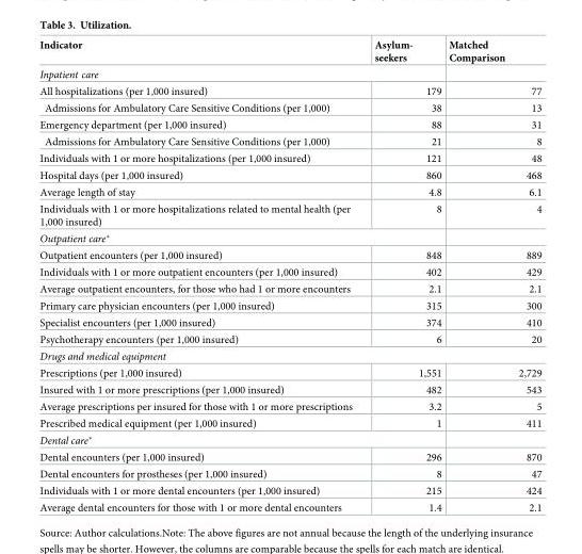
<table><thead><tr><td>Indicator</td><td>Asylum- seekers</td><td>Matched Comparison</td></tr></thead><tbody><tr><td colspan="3">Inpatient care</td></tr><tr><td>All hospitalizations (per 1,000 insured)</td><td>179</td><td>77</td></tr><tr><td>Admissions for Ambulatory Care Sensitive Conditions (per 1,000)</td><td>38</td><td>13</td></tr><tr><td>Emergency department (per 1,000 insured)</td><td>88</td><td>31</td></tr><tr><td>Admissions for Ambulatory Care Sensitive Conditions (per 1,000)</td><td>21</td><td>8</td></tr><tr><td>Individuals with 1 or more hospitalizations (per 1,000 insured)</td><td>121</td><td>48</td></tr><tr><td>Hospital days (per 1,000 insured)</td><td>860</td><td>468</td></tr><tr><td>Average length of stay</td><td>4.8</td><td>6.1</td></tr><tr><td>Individuals with 1 or more hospitalizations related to mental health (per 1,000 insured)</td><td>8</td><td>4</td></tr><tr><td colspan="3">Outpatient care*</td></tr><tr><td>Outpatient encounters (per 1,000 insured)</td><td>848</td><td>889</td></tr><tr><td>Individuals with 1 or more outpatient encounters (per 1,000 insured)</td><td>402</td><td>429</td></tr><tr><td>Average outpatient encounters, for those who had 1 or more encounters</td><td>2.1</td><td>2.1</td></tr><tr><td>Primary care physician encounters (per 1,000 insured)</td><td>315</td><td>300</td></tr><tr><td>Specialist encounters (per 1,000 insured)</td><td>374</td><td>410</td></tr><tr><td>Psychotherapy encounters (per 1,000 insured)</td><td>6</td><td>20</td></tr><tr><td colspan="3">Drugs and medical equipment</td></tr><tr><td>Prescriptions (per 1,000 insured)</td><td>1,551</td><td>2,729</td></tr><tr><td>Insured with 1 or more prescriptions (per 1,000 insured)</td><td>482</td><td>543</td></tr><tr><td>Average prescriptions per insured for those with 1 or more prescriptions</td><td>3.2</td><td>5</td></tr><tr><td>Prescribed medical equipment (per 1,000 insured)</td><td>1</td><td>411</td></tr><tr><td colspan="3">Dental care*</td></tr><tr><td>Dental encounters (per 1,000 insured)</td><td>296</td><td>870</td></tr><tr><td>Dental encounters for prostheses (per 1,000 insured)</td><td>8</td><td>47</td></tr><tr><td>Individuals with 1 or more dental encounters (per 1,000 insured)</td><td>215</td><td>424</td></tr><tr><td>Average dental encounters for those with 1 or more dental encounters</td><td>1.4</td><td>2.1</td></tr></tbody></table>